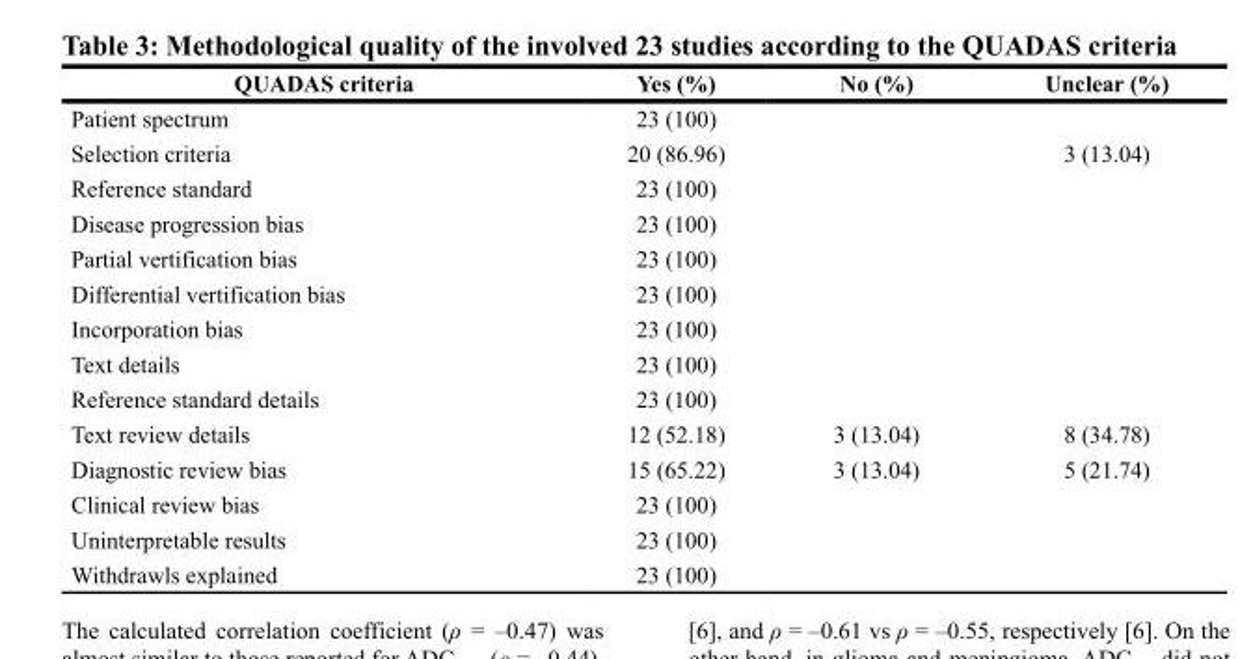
<table><thead><tr><td>QUADAS criteria</td><td>Yes (%)</td><td>No (%)</td><td>Unclear (%)</td></tr></thead><tbody><tr><td>Patient spectrum</td><td>23 (100)</td><td></td><td></td></tr><tr><td>Selection criteria</td><td>20 (86.96)</td><td></td><td>3 (13.04)</td></tr><tr><td>Reference standard</td><td>23 (100)</td><td></td><td></td></tr><tr><td>Disease progression bias</td><td>23 (100)</td><td></td><td></td></tr><tr><td>Partial vertification bias</td><td>23 (100)</td><td></td><td></td></tr><tr><td>Differential vertification bias</td><td>23 (100)</td><td></td><td></td></tr><tr><td>Incorporation bias</td><td>23 (100)</td><td></td><td></td></tr><tr><td>Text details</td><td>23 (100)</td><td></td><td></td></tr><tr><td>Reference standard details</td><td>23 (100)</td><td></td><td></td></tr><tr><td>Text review details</td><td>12 (52.18)</td><td>3 (13.04)</td><td>8 (34.78)</td></tr><tr><td>Diagnostic review bias</td><td>15 (65.22)</td><td>3 (13.04)</td><td>5 (21.74)</td></tr><tr><td>Clinical review bias</td><td>23 (100)</td><td></td><td></td></tr><tr><td>Uninterpretable results</td><td>23 (100)</td><td></td><td></td></tr><tr><td>Withdrawls explained</td><td>23 (100)</td><td></td><td></td></tr></tbody></table>